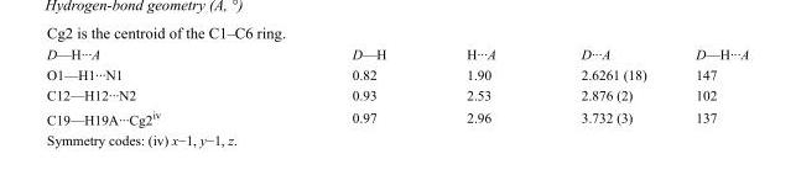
<table><tbody><tr><td>D—H···A</td><td>D—H</td><td>H···A</td><td>D···A</td><td>D—H···A</td></tr><tr><td>O1—H1···N1</td><td>0.82</td><td>1.90</td><td>2.6261 (18)</td><td>147</td></tr><tr><td>C12—H12···N2</td><td>0.93</td><td>2.53</td><td>2.876 (2)</td><td>102</td></tr><tr><td>C19—H19A···Cg2<sup>iv</sup></td><td>0.97</td><td>2.96</td><td>3.732 (3)</td><td>137</td></tr></tbody></table>